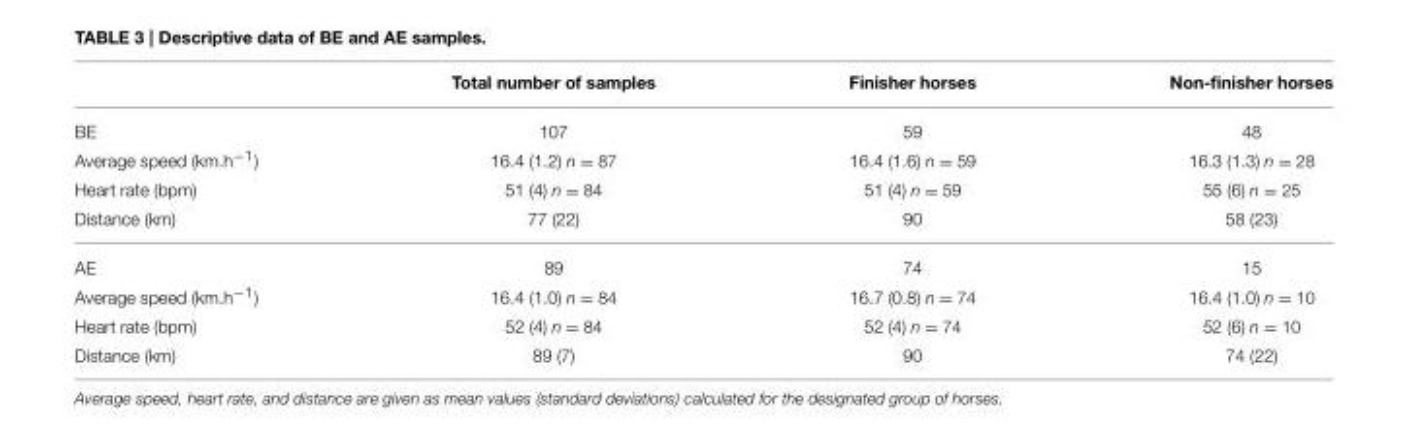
<table><thead><tr><td></td><td>Total number of samples</td><td>Finisher horses</td><td>Non-finisher horses</td></tr></thead><tbody><tr><td>BE</td><td>107</td><td>59</td><td>48</td></tr><tr><td>Average speed (km.h<sup>−1</sup>)</td><td>16.4 (1.2) n = 87</td><td>16.4 (1.6) n = 59</td><td>16.3 (1.3) n = 28</td></tr><tr><td>Heart rate (bpm)</td><td>51 (4) n = 84</td><td>51 (4) n = 59</td><td>55 (6) n = 25</td></tr><tr><td>Distance (km)</td><td>77 (22)</td><td>90</td><td>58 (23)</td></tr><tr><td>AE</td><td>89</td><td>74</td><td>15</td></tr><tr><td>Average speed (km.h<sup>−1</sup>)</td><td>16.4 (1.0) n = 84</td><td>16.7 (0.8) n = 74</td><td>16.4 (1.0) n = 10</td></tr><tr><td>Heart rate (bpm)</td><td>52 (4) n = 84</td><td>52 (4) n = 74</td><td>52 (6) n = 10</td></tr><tr><td>Distance (km)</td><td>89 (7)</td><td>90</td><td>74 (22)</td></tr></tbody></table>